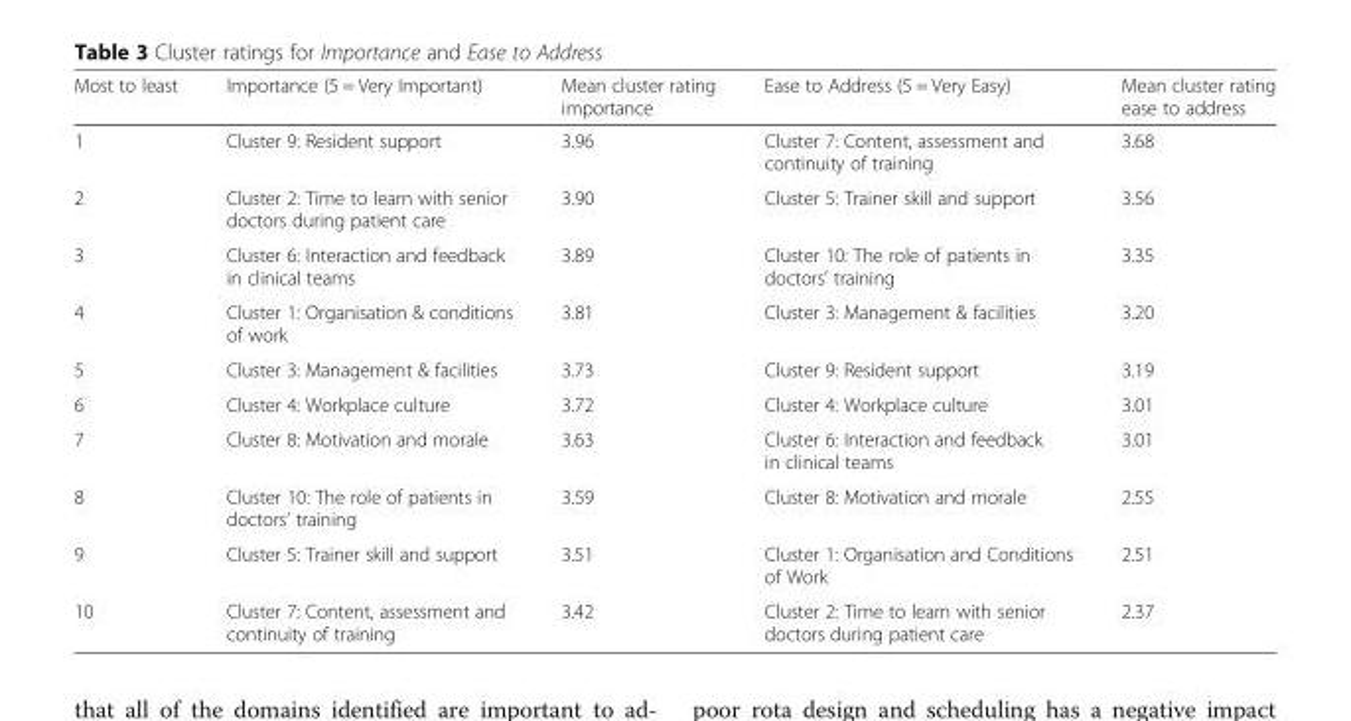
<table><thead><tr><td>Most to least</td><td>Importance (5 = Very Important)</td><td>Mean cluster rating importance</td><td>Ease to Address (5 = Very Easy)</td><td>Mean cluster rating ease to address</td></tr></thead><tbody><tr><td>1</td><td>Cluster 9: Resident support</td><td>3.96</td><td>Cluster 7: Content, assessment and continuity of training</td><td>3.68</td></tr><tr><td>2</td><td>Cluster 2: Time to learn with senior doctors during patient care</td><td>3.90</td><td>Cluster 5: Trainer skill and support</td><td>3.56</td></tr><tr><td>3</td><td>Cluster 6: Interaction and feedback in clinical teams</td><td>3.89</td><td>Cluster 10: The role of patients in doctors’ training</td><td>3.35</td></tr><tr><td>4</td><td>Cluster 1: Organisation &amp; conditions of work</td><td>3.81</td><td>Cluster 3: Management &amp; facilities</td><td>3.20</td></tr><tr><td>5</td><td>Cluster 3: Management &amp; facilities</td><td>3.73</td><td>Cluster 9: Resident support</td><td>3.19</td></tr><tr><td>6</td><td>Cluster 4: Workplace culture</td><td>3.72</td><td>Cluster 4: Workplace culture</td><td>3.01</td></tr><tr><td>7</td><td>Cluster 8: Motivation and morale</td><td>3.63</td><td>Cluster 6: Interaction and feedback in clinical teams</td><td>3.01</td></tr><tr><td>8</td><td>Cluster 10: The role of patients in doctors’ training</td><td>3.59</td><td>Cluster 8: Motivation and morale</td><td>2.55</td></tr><tr><td>9</td><td>Cluster 5: Trainer skill and support</td><td>3.51</td><td>Cluster 1: Organisation and Conditions of Work</td><td>2.51</td></tr><tr><td>10</td><td>Cluster 7: Content, assessment and continuity of training</td><td>3.42</td><td>Cluster 2: Time to learn with senior doctors during patient care</td><td>2.37</td></tr></tbody></table>